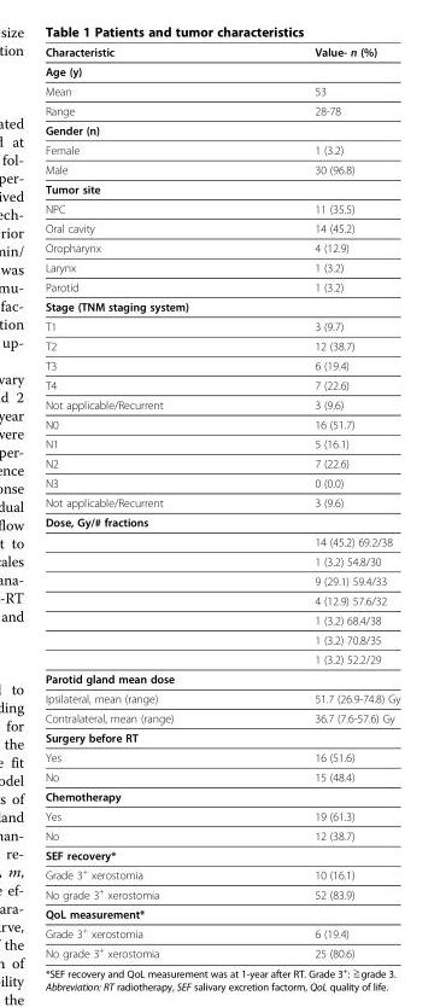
<table><thead><tr><td>Characteristic</td><td>Value- n (%)</td></tr></thead><tbody><tr><td colspan="2">Age (y)</td></tr><tr><td>Mean</td><td>53</td></tr><tr><td>Range</td><td>28-78</td></tr><tr><td colspan="2">Gender (n)</td></tr><tr><td>Female</td><td>1 (3.2)</td></tr><tr><td>Male</td><td>30 (96.8)</td></tr><tr><td colspan="2">Tumor site</td></tr><tr><td>NPC</td><td>11 (35.5)</td></tr><tr><td>Oral cavity</td><td>14 (45.2)</td></tr><tr><td>Oropharynx</td><td>4 (12.9)</td></tr><tr><td>Larynx</td><td>1 (3.2)</td></tr><tr><td>Parotid</td><td>1 (3.2)</td></tr><tr><td colspan="2">Stage (TNM staging system)</td></tr><tr><td>T1</td><td>3 (9.7)</td></tr><tr><td>T2</td><td>12 (38.7)</td></tr><tr><td>T3</td><td>6 (19.4)</td></tr><tr><td>T4</td><td>7 (22.6)</td></tr><tr><td>Not applicable/Recurrent</td><td>3 (9.6)</td></tr><tr><td>N0</td><td>16 (51.7)</td></tr><tr><td>N1</td><td>5 (16.1)</td></tr><tr><td>N2</td><td>7 (22.6)</td></tr><tr><td>N3</td><td>0 (0.0)</td></tr><tr><td>Not applicable/Recurrent</td><td>3 (9.6)</td></tr><tr><td colspan="2">Dose, Gy/# fractions</td></tr><tr><td></td><td>14 (45.2) 69.2/38</td></tr><tr><td></td><td>1 (3.2) 54.8/30</td></tr><tr><td></td><td>9 (29.1) 59.4/33</td></tr><tr><td></td><td>4 (12.9) 57.6/32</td></tr><tr><td></td><td>1 (3.2) 68.4/38</td></tr><tr><td></td><td>1 (3.2) 70.8/35</td></tr><tr><td></td><td>1 (3.2) 52.2/29</td></tr><tr><td colspan="2">Parotid gland mean dose</td></tr><tr><td>Ipsilateral, mean (range)</td><td>51.7 (26.9-74.8) Gy</td></tr><tr><td>Contralateral, mean (range)</td><td>36.7 (7.6-57.6) Gy</td></tr><tr><td colspan="2">Surgery before RT</td></tr><tr><td>Yes</td><td>16 (51.6)</td></tr><tr><td>No</td><td>15 (48.4)</td></tr><tr><td colspan="2">Chemotherapy</td></tr><tr><td>Yes</td><td>19 (61.3)</td></tr><tr><td>No</td><td>12 (38.7)</td></tr><tr><td colspan="2">SEF recovery*</td></tr><tr><td>Grade 3<sup>+</sup> xerostomia</td><td>10 (16.1)</td></tr><tr><td>No grade 3<sup>+</sup> xerostomia</td><td>52 (83.9)</td></tr><tr><td colspan="2">QoL measurement*</td></tr><tr><td>Grade 3<sup>+</sup> xerostomia</td><td>6 (19.4)</td></tr><tr><td>No grade 3<sup>+</sup> xerostomia</td><td>25 (80.6)</td></tr></tbody></table>